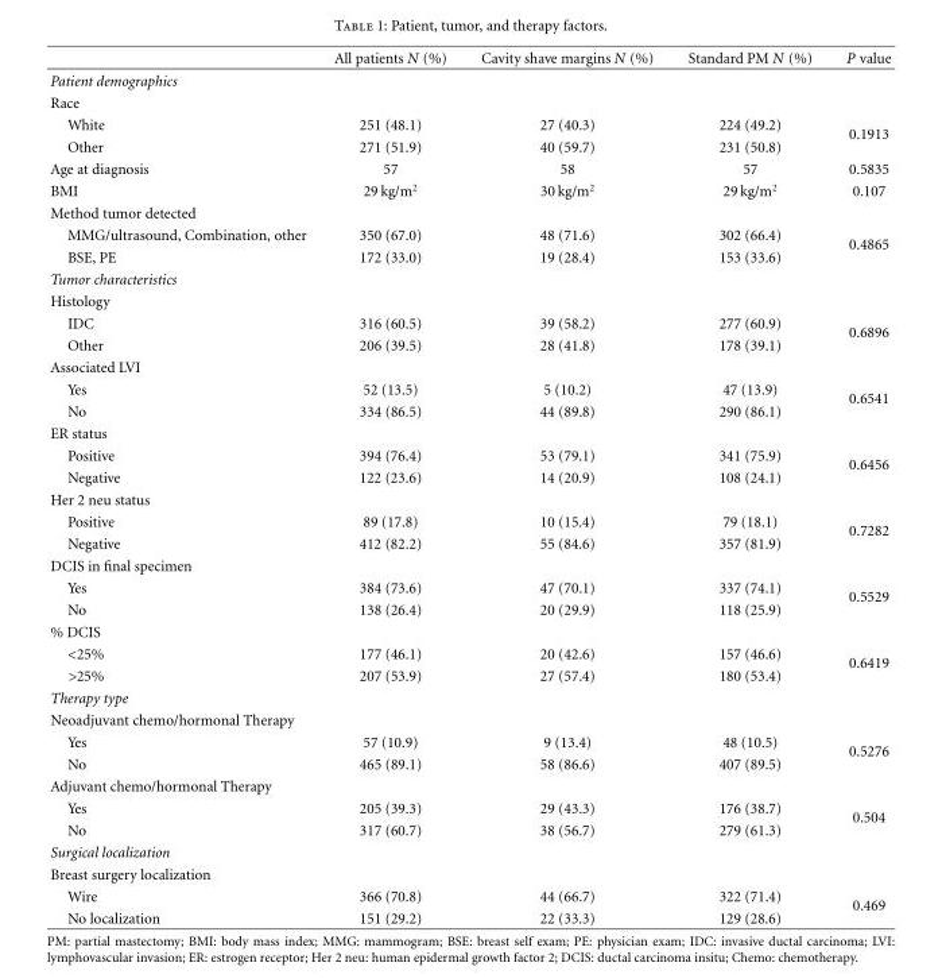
<table><thead><tr><td></td><td>All patients N (%)</td><td>Cavity shave margins N (%)</td><td>Standard PM N (%)</td><td>P value</td></tr></thead><tbody><tr><td colspan="5">Patient demographics</td></tr><tr><td colspan="5">Race</td></tr><tr><td>White</td><td>251 (48.1)</td><td>27 (40.3)</td><td>224 (49.2)</td><td rowspan="2">0.1913</td></tr><tr><td>Other</td><td>271 (51.9)</td><td>40 (59.7)</td><td>231 (50.8)</td></tr><tr><td>Age at diagnosis</td><td>57</td><td>58</td><td>57</td><td>0.5835</td></tr><tr><td>BMI</td><td>29 kg/m<sup>2</sup></td><td>30 kg/m<sup>2</sup></td><td>29 kg/m<sup>2</sup></td><td>0.107</td></tr><tr><td colspan="5">Method tumor detected</td></tr><tr><td>MMG/ultrasound, Combination, other</td><td>350 (67.0)</td><td>48 (71.6)</td><td>302 (66.4)</td><td rowspan="2">0.4865</td></tr><tr><td>BSE, PE</td><td>172 (33.0)</td><td>19 (28.4)</td><td>153 (33.6)</td></tr><tr><td colspan="5">Tumor characteristics</td></tr><tr><td colspan="5">Histology</td></tr><tr><td>IDC</td><td>316 (60.5)</td><td>39 (58.2)</td><td>277 (60.9)</td><td rowspan="2">0.6896</td></tr><tr><td>Other</td><td>206 (39.5)</td><td>28 (41.8)</td><td>178 (39.1)</td></tr><tr><td colspan="5">Associated LVI</td></tr><tr><td>Yes</td><td>52 (13.5)</td><td>5 (10.2)</td><td>47 (13.9)</td><td rowspan="2">0.6541</td></tr><tr><td>No</td><td>334 (86.5)</td><td>44 (89.8)</td><td>290 (86.1)</td></tr><tr><td colspan="5">ER status</td></tr><tr><td>Positive</td><td>394 (76.4)</td><td>53 (79.1)</td><td>341 (75.9)</td><td rowspan="2">0.6456</td></tr><tr><td>Negative</td><td>122 (23.6)</td><td>14 (20.9)</td><td>108 (24.1)</td></tr><tr><td colspan="5">Her 2 neu status</td></tr><tr><td>Positive</td><td>89 (17.8)</td><td>10 (15.4)</td><td>79 (18.1)</td><td rowspan="2">0.7282</td></tr><tr><td>Negative</td><td>412 (82.2)</td><td>55 (84.6)</td><td>357 (81.9)</td></tr><tr><td colspan="5">DCIS in final specimen</td></tr><tr><td>Yes</td><td>384 (73.6)</td><td>47 (70.1)</td><td>337 (74.1)</td><td rowspan="2">0.5529</td></tr><tr><td>No</td><td>138 (26.4)</td><td>20 (29.9)</td><td>118 (25.9)</td></tr><tr><td colspan="5">% DCIS</td></tr><tr><td>&lt;25%</td><td>177 (46.1)</td><td>20 (42.6)</td><td>157 (46.6)</td><td rowspan="2">0.6419</td></tr><tr><td>&gt;25%</td><td>207 (53.9)</td><td>27 (57.4)</td><td>180 (53.4)</td></tr><tr><td colspan="5">Therapy type</td></tr><tr><td colspan="5">Neoadjuvant chemo/hormonal Therapy</td></tr><tr><td>Yes</td><td>57 (10.9)</td><td>9 (13.4)</td><td>48 (10.5)</td><td rowspan="2">0.5276</td></tr><tr><td>No</td><td>465 (89.1)</td><td>58 (86.6)</td><td>407 (89.5)</td></tr><tr><td colspan="5">Adjuvant chemo/hormonal Therapy</td></tr><tr><td>Yes</td><td>205 (39.3)</td><td>29 (43.3)</td><td>176 (38.7)</td><td rowspan="2">0.504</td></tr><tr><td>No</td><td>317 (60.7)</td><td>38 (56.7)</td><td>279 (61.3)</td></tr><tr><td colspan="5">Surgical localization</td></tr><tr><td colspan="5">Breast surgery localization</td></tr><tr><td>Wire</td><td>366 (70.8)</td><td>44 (66.7)</td><td>322 (71.4)</td><td rowspan="2">0.469</td></tr><tr><td>No localization</td><td>151 (29.2)</td><td>22 (33.3)</td><td>129 (28.6)</td></tr></tbody></table>